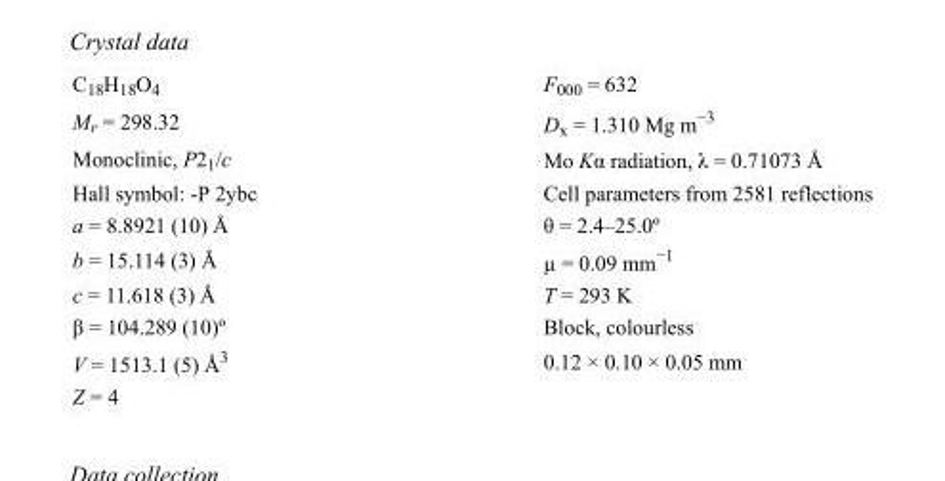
<table><tbody><tr><td>C18H18O4</td><td>F000 = 632</td></tr><tr><td>Mr = 298.32</td><td>Dx = 1.310 Mg m−3</td></tr><tr><td>Monoclinic, P21/c</td><td>Mo Kα radiation, λ = 0.71073 Å</td></tr><tr><td>Hall symbol: -P 2ybc</td><td>Cell parameters from 2581 reflections</td></tr><tr><td>a = 8.8921 (10) Å</td><td>θ = 2.4–25.0º</td></tr><tr><td>b = 15.114 (3) Å</td><td>µ = 0.09 mm−1</td></tr><tr><td>c = 11.618 (3) Å</td><td>T = 293 K</td></tr><tr><td>β = 104.289 (10)º</td><td>Block, colourless</td></tr><tr><td>V = 1513.1 (5) Å3</td><td>0.12 × 0.10 × 0.05 mm</td></tr><tr><td>Z = 4</td><td></td></tr></tbody></table>